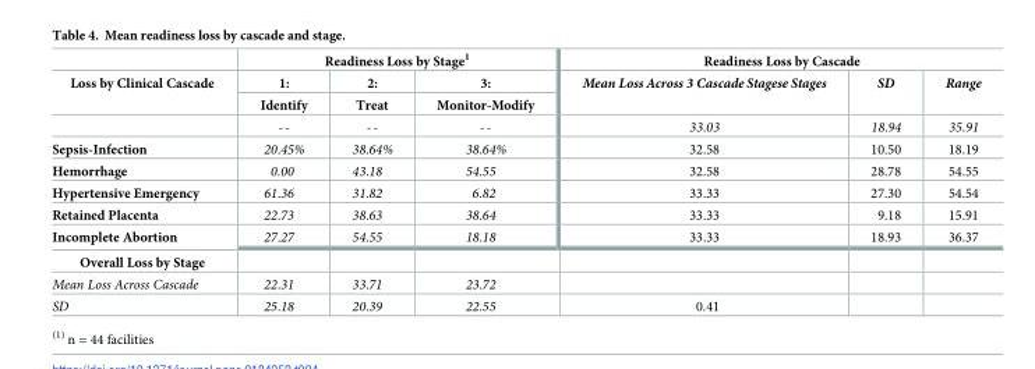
<table><thead><tr><td rowspan="3">Loss by Clinical Cascade</td><td colspan="3">Readiness Loss by Stage<sup>1</sup></td><td colspan="3">Readiness Loss by Cascade</td></tr><tr><td rowspan="2">1: Identify</td><td rowspan="2">2: Treat</td><td rowspan="2">3: Monitor-Modify</td><td rowspan="2">Mean Loss Across 3 Cascade Stagese Stages</td><td rowspan="2">SD</td><td rowspan="2">Range</td></tr><tr></tr></thead><tbody><tr><td></td><td>--</td><td>--</td><td>--</td><td>33.03</td><td>18.94</td><td>35.91</td></tr><tr><td>Sepsis-Infection</td><td>20.45%</td><td>38.64%</td><td>38.64%</td><td>32.58</td><td>10.50</td><td>18.19</td></tr><tr><td>Hemorrhage</td><td>0.00</td><td>43.18</td><td>54.55</td><td>32.58</td><td>28.78</td><td>54.55</td></tr><tr><td>Hypertensive Emergency</td><td>61.36</td><td>31.82</td><td>6.82</td><td>33.33</td><td>27.30</td><td>54.54</td></tr><tr><td>Retained Placenta</td><td>22.73</td><td>38.63</td><td>38.64</td><td>33.33</td><td>9.18</td><td>15.91</td></tr><tr><td>Incomplete Abortion</td><td>27.27</td><td>54.55</td><td>18.18</td><td>33.33</td><td>18.93</td><td>36.37</td></tr><tr><td colspan="7">Overall Loss by Stage</td></tr><tr><td>Mean Loss Across Cascade</td><td>22.31</td><td>33.71</td><td>23.72</td><td></td><td></td><td></td></tr><tr><td>SD</td><td>25.18</td><td>20.39</td><td>22.55</td><td>0.41</td><td></td><td></td></tr></tbody></table>